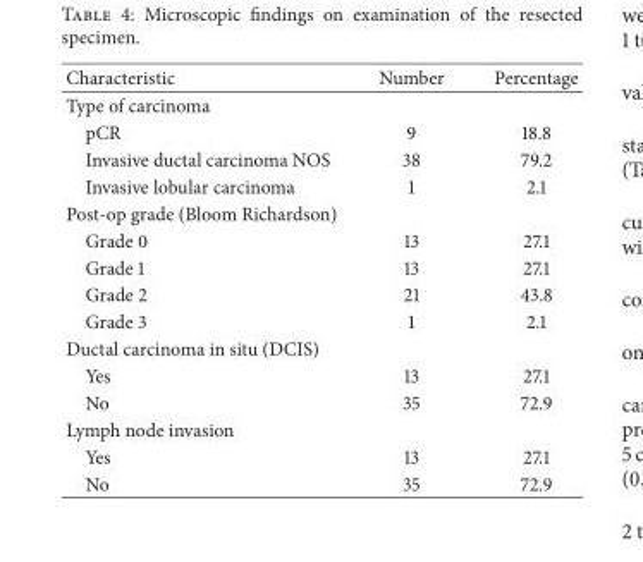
<table><thead><tr><td>Characteristic</td><td>Number</td><td>Percentage</td></tr></thead><tbody><tr><td colspan="3">Type of carcinoma</td></tr><tr><td>pCR</td><td>9</td><td>18.8</td></tr><tr><td>Invasive ductal carcinoma NOS</td><td>38</td><td>79.2</td></tr><tr><td>Invasive lobular carcinoma</td><td>1</td><td>2.1</td></tr><tr><td colspan="3">Post-op grade (Bloom Richardson)</td></tr><tr><td>Grade 0</td><td>13</td><td>27.1</td></tr><tr><td>Grade 1</td><td>13</td><td>27.1</td></tr><tr><td>Grade 2</td><td>21</td><td>43.8</td></tr><tr><td>Grade 3</td><td>1</td><td>2.1</td></tr><tr><td colspan="3">Ductal carcinoma in situ (DCIS)</td></tr><tr><td>Yes</td><td>13</td><td>27.1</td></tr><tr><td>No</td><td>35</td><td>72.9</td></tr><tr><td colspan="3">Lymph node invasion</td></tr><tr><td>Yes</td><td>13</td><td>27.1</td></tr><tr><td>No</td><td>35</td><td>72.9</td></tr></tbody></table>